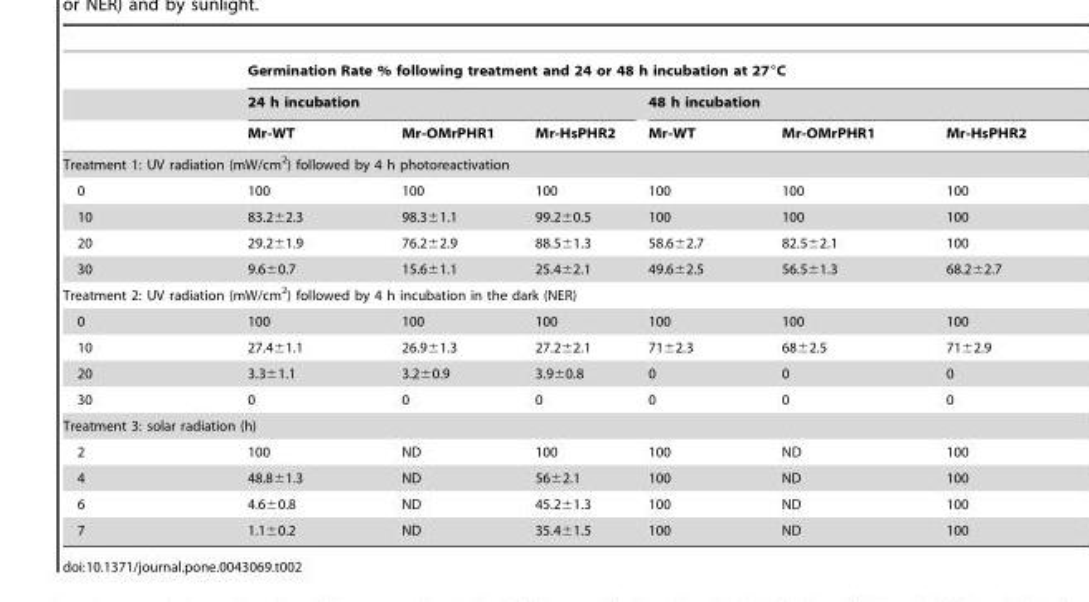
<table><thead><tr><td rowspan="3"></td><td colspan="6">Germination Rate % following treatment and 24 or 48 h incubation at 27°C</td></tr><tr><td colspan="3">24 h incubation</td><td colspan="3">48 h incubation</td></tr><tr><td>Mr-WT</td><td>Mr-OMrPHR1</td><td>Mr-HsPHR2</td><td>Mr-WT</td><td>Mr-OMrPHR1</td><td>Mr-HsPHR2</td></tr></thead><tbody><tr><td colspan="7">Treatment 1: UV radiation (mW/cm<sup>2</sup>) followed by 4 h photoreactivation</td></tr><tr><td>0</td><td>100</td><td>100</td><td>100</td><td>100</td><td>100</td><td>100</td></tr><tr><td>10</td><td>83.2±2.3</td><td>98.3±1.1</td><td>99.2±0.5</td><td>100</td><td>100</td><td>100</td></tr><tr><td>20</td><td>29.2±1.9</td><td>76.2±2.9</td><td>88.5±1.3</td><td>58.6±2.7</td><td>82.5±2.1</td><td>100</td></tr><tr><td>30</td><td>9.6±0.7</td><td>15.6±1.1</td><td>25.4±2.1</td><td>49.6±2.5</td><td>56.5±1.3</td><td>68.2±2.7</td></tr><tr><td colspan="7">Treatment 2: UV radiation (mW/cm<sup>2</sup>) followed by 4 h incubation in the dark (NER)</td></tr><tr><td>0</td><td>100</td><td>100</td><td>100</td><td>100</td><td>100</td><td>100</td></tr><tr><td>10</td><td>27.4±1.1</td><td>26.9±1.3</td><td>27.2±2.1</td><td>71±2.3</td><td>68±2.5</td><td>71±2.9</td></tr><tr><td>20</td><td>3.3±1.1</td><td>3.2±0.9</td><td>3.9±0.8</td><td>0</td><td>0</td><td>0</td></tr><tr><td>30</td><td>0</td><td>0</td><td>0</td><td>0</td><td>0</td><td>0</td></tr><tr><td colspan="7">Treatment 3: solar radiation (h)</td></tr><tr><td>2</td><td>100</td><td>ND</td><td>100</td><td>100</td><td>ND</td><td>100</td></tr><tr><td>4</td><td>48.8±1.3</td><td>ND</td><td>56±2.1</td><td>100</td><td>ND</td><td>100</td></tr><tr><td>6</td><td>4.6±0.8</td><td>ND</td><td>45.2±1.3</td><td>100</td><td>ND</td><td>100</td></tr><tr><td>7</td><td>1.1±0.2</td><td>ND</td><td>35.4±1.5</td><td>100</td><td>ND</td><td>100</td></tr></tbody></table>